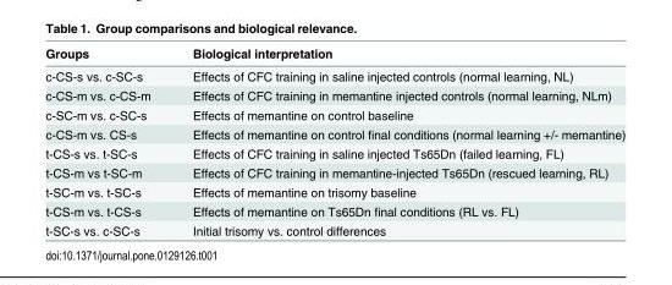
<table><thead><tr><td>Groups</td><td>Biological interpretation</td></tr></thead><tbody><tr><td>c-CS-s vs. c-SC-s</td><td>Effects of CFC training in saline injected controls (normal learning, NL)</td></tr><tr><td>c-CS-m vs. c-CS-m</td><td>Effects of CFC training in memantine injected controls (normal learning, NLm)</td></tr><tr><td>c-SC-m vs. c-SC-s</td><td>Effects of memantine on control baseline</td></tr><tr><td>c-CS-m vs. CS-s</td><td>Effects of memantine on control final conditions (normal learning +/- memantine)</td></tr><tr><td>t-CS-s vs. t-SC-s</td><td>Effects of CFC training in saline injected Ts65Dn (failed learning, FL)</td></tr><tr><td>t-CS-m vs t-SC-m</td><td>Effects of CFC training in memantine-injected Ts65Dn (rescued learning, RL)</td></tr><tr><td>t-SC-m vs. t-SC-s</td><td>Effects of memantine on trisomy baseline</td></tr><tr><td>t-CS-m vs. t-CS-s</td><td>Effects of memantine on Ts65Dn final conditions (RL vs. FL)</td></tr><tr><td>t-SC-s vs. c-SC-s</td><td>Initial trisomy vs. control differences</td></tr></tbody></table>